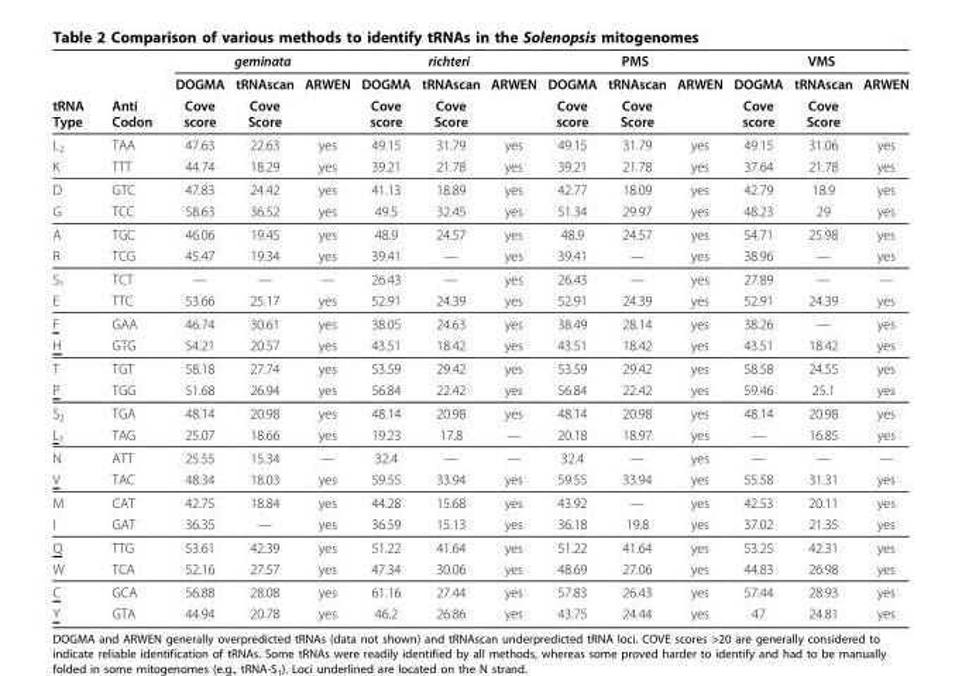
<table><thead><tr><td rowspan="3">tRNA Type</td><td rowspan="3">Anti Codon</td><td colspan="3">geminata</td><td colspan="3">richteri</td><td colspan="3">PMS</td><td colspan="3">VMS</td></tr><tr><td rowspan="2">DOGMA Cove score</td><td rowspan="2">tRNAscan Cove Score</td><td rowspan="2">ARWEN</td><td rowspan="2">DOGMA Cove score</td><td rowspan="2">tRNAscan Cove Score</td><td rowspan="2">ARWEN</td><td rowspan="2">DOGMA Cove score</td><td rowspan="2">tRNAscan Cove Score</td><td rowspan="2">ARWEN</td><td rowspan="2">DOGMA Cove score</td><td rowspan="2">tRNAscan Cove Score</td><td rowspan="2">ARWEN</td></tr><tr></tr></thead><tbody><tr><td>L2</td><td>TAA</td><td>47.63</td><td>22.63</td><td>yes</td><td>49.15</td><td>31.79</td><td>yes</td><td>49.15</td><td>31.79</td><td>yes</td><td>49.15</td><td>31.06</td><td>yes</td></tr><tr><td>K</td><td>TTT</td><td>44.74</td><td>18.29</td><td>yes</td><td>39.21</td><td>21.78</td><td>yes</td><td>39.21</td><td>21.78</td><td>yes</td><td>37.64</td><td>21.78</td><td>yes</td></tr><tr><td>D</td><td>GTC</td><td>47.83</td><td>24.42</td><td>yes</td><td>41.13</td><td>18.89</td><td>yes</td><td>42.77</td><td>18.09</td><td>yes</td><td>42.79</td><td>18.9</td><td>yes</td></tr><tr><td>G</td><td>TCC</td><td>58.63</td><td>36.52</td><td>yes</td><td>49.5</td><td>32.45</td><td>yes</td><td>51.34</td><td>29.97</td><td>yes</td><td>48.23</td><td>29</td><td>yes</td></tr><tr><td>A</td><td>TGC</td><td>46.06</td><td>19.45</td><td>yes</td><td>48.9</td><td>24.57</td><td>yes</td><td>48.9</td><td>24.57</td><td>yes</td><td>54.71</td><td>25.98</td><td>yes</td></tr><tr><td>R</td><td>TCG</td><td>45.47</td><td>19.34</td><td>yes</td><td>39.41</td><td>—</td><td>yes</td><td>39.41</td><td>—</td><td>yes</td><td>38.96</td><td>—</td><td>yes</td></tr><tr><td>S1</td><td>TCT</td><td>—</td><td>—</td><td>—</td><td>26.43</td><td>—</td><td>yes</td><td>26.43</td><td>—</td><td>yes</td><td>27.89</td><td>—</td><td>—</td></tr><tr><td>E</td><td>TTC</td><td>53.66</td><td>25.17</td><td>yes</td><td>52.91</td><td>24.39</td><td>yes</td><td>52.91</td><td>24.39</td><td>yes</td><td>52.91</td><td>24.39</td><td>yes</td></tr><tr><td>F</td><td>GAA</td><td>46.74</td><td>30.61</td><td>yes</td><td>38.05</td><td>24.63</td><td>yes</td><td>38.49</td><td>28.14</td><td>yes</td><td>38.26</td><td>—</td><td>yes</td></tr><tr><td>H</td><td>GTG</td><td>54.21</td><td>20.57</td><td>yes</td><td>43.51</td><td>18.42</td><td>yes</td><td>43.51</td><td>18.42</td><td>yes</td><td>43.51</td><td>18.42</td><td>yes</td></tr><tr><td>T</td><td>TGT</td><td>58.18</td><td>27.74</td><td>yes</td><td>53.59</td><td>29.42</td><td>yes</td><td>53.59</td><td>29.42</td><td>yes</td><td>58.58</td><td>24.55</td><td>yes</td></tr><tr><td>P</td><td>TGG</td><td>51.68</td><td>26.94</td><td>yes</td><td>56.84</td><td>22.42</td><td>yes</td><td>56.84</td><td>22.42</td><td>yes</td><td>59.46</td><td>25.1</td><td>yes</td></tr><tr><td>S2</td><td>TGA</td><td>48.14</td><td>20.98</td><td>yes</td><td>48.14</td><td>20.98</td><td>yes</td><td>48.14</td><td>20.98</td><td>yes</td><td>48.14</td><td>20.98</td><td>yes</td></tr><tr><td>L1</td><td>TAG</td><td>25.07</td><td>18.66</td><td>yes</td><td>19.23</td><td>17.8</td><td>—</td><td>20.18</td><td>18.97</td><td>yes</td><td>—</td><td>16.85</td><td>yes</td></tr><tr><td>N</td><td>ATT</td><td>25.55</td><td>15.34</td><td>—</td><td>32.4</td><td>—</td><td>—</td><td>32.4</td><td>—</td><td>yes</td><td>—</td><td>—</td><td>—</td></tr><tr><td>V</td><td>TAC</td><td>48.34</td><td>18.03</td><td>yes</td><td>59.55</td><td>33.94</td><td>yes</td><td>59.55</td><td>33.94</td><td>yes</td><td>55.58</td><td>31.31</td><td>yes</td></tr><tr><td>M</td><td>CAT</td><td>42.75</td><td>18.84</td><td>yes</td><td>44.28</td><td>15.68</td><td>yes</td><td>43.92</td><td>—</td><td>yes</td><td>42.53</td><td>20.11</td><td>yes</td></tr><tr><td>I</td><td>GAT</td><td>36.35</td><td>—</td><td>yes</td><td>36.59</td><td>15.13</td><td>yes</td><td>36.18</td><td>19.8</td><td>yes</td><td>37.02</td><td>21.35</td><td>yes</td></tr><tr><td>Q</td><td>TTG</td><td>53.61</td><td>42.39</td><td>yes</td><td>51.22</td><td>41.64</td><td>yes</td><td>51.22</td><td>41.64</td><td>yes</td><td>53.25</td><td>42.31</td><td>yes</td></tr><tr><td>W</td><td>TCA</td><td>52.16</td><td>27.57</td><td>yes</td><td>47.34</td><td>30.06</td><td>yes</td><td>48.69</td><td>27.06</td><td>yes</td><td>44.83</td><td>26.98</td><td>yes</td></tr><tr><td>C</td><td>GCA</td><td>56.88</td><td>28.08</td><td>yes</td><td>61.16</td><td>27.44</td><td>yes</td><td>57.83</td><td>26.43</td><td>yes</td><td>57.44</td><td>28.93</td><td>yes</td></tr><tr><td>Y</td><td>GTA</td><td>44.94</td><td>20.78</td><td>yes</td><td>46.2</td><td>26.86</td><td>yes</td><td>43.75</td><td>24.44</td><td>yes</td><td>47</td><td>24.81</td><td>yes</td></tr></tbody></table>